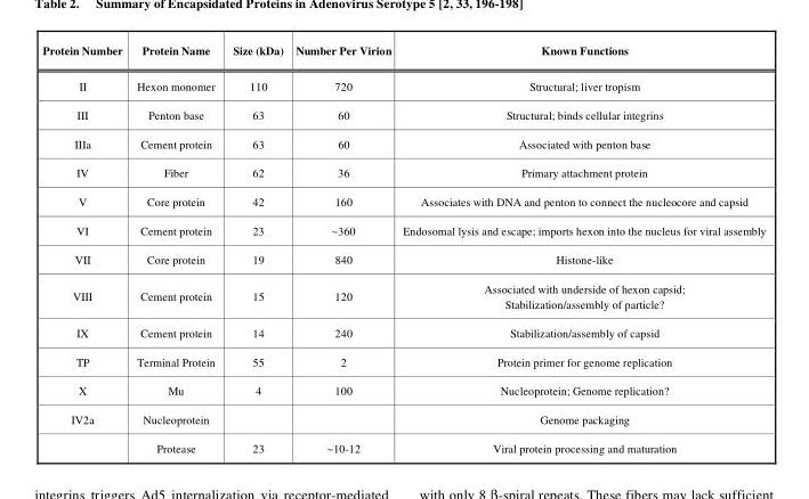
<table><thead><tr><td>Protein Number</td><td>Protein Name</td><td>Size (kDa)</td><td>Number Per Virion</td><td>Known Functions</td></tr></thead><tbody><tr><td>II</td><td>Hexon monomer</td><td>110</td><td>720</td><td>Structural; liver tropism</td></tr><tr><td>III</td><td>Penton base</td><td>63</td><td>60</td><td>Structural; binds cellular integrins</td></tr><tr><td>IIIa</td><td>Cement protein</td><td>63</td><td>60</td><td>Associated with penton base</td></tr><tr><td>IV</td><td>Fiber</td><td>62</td><td>36</td><td>Primary attachment protein</td></tr><tr><td>V</td><td>Core protein</td><td>42</td><td>160</td><td>Associates with DNA and penton to connect the nucleocore and capsid</td></tr><tr><td>VI</td><td>Cement protein</td><td>23</td><td>~360</td><td>Endosomal lysis and escape; imports hexon into the nucleus for viral assembly</td></tr><tr><td>VII</td><td>Core protein</td><td>19</td><td>840</td><td>Histone-like</td></tr><tr><td>VIII</td><td>Cement protein</td><td>15</td><td>120</td><td>Associated with underside of hexon capsid; Stabilization/assembly of particle?</td></tr><tr><td>IX</td><td>Cement protein</td><td>14</td><td>240</td><td>Stabilization/assembly of capsid</td></tr><tr><td>TP</td><td>Terminal Protein</td><td>55</td><td>2</td><td>Protein primer for genome replication</td></tr><tr><td>X</td><td>Mu</td><td>4</td><td>100</td><td>Nucleoprotein; Genome replication?</td></tr><tr><td rowspan="2">IV2a</td><td>Nucleoprotein</td><td></td><td></td><td>Genome packaging</td></tr><tr><td>Protease</td><td>23</td><td>~10-12</td><td>Viral protein processing and maturation</td></tr></tbody></table>